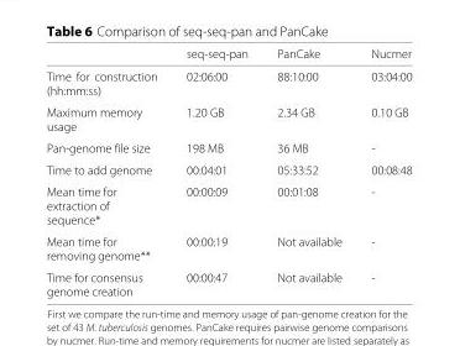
<table><thead><tr><td></td><td>seq-seq-pan</td><td>PanCake</td><td>Nucmer</td></tr></thead><tbody><tr><td>Time for construction (hh:mm:ss)</td><td>02:06:00</td><td>88:10:00</td><td>03:04:00</td></tr><tr><td>Maximum memory usage</td><td>1.20 GB</td><td>2.34 GB</td><td>0.10 GB</td></tr><tr><td>Pan-genome file size</td><td>198 MB</td><td>36 MB</td><td>-</td></tr><tr><td>Time to add genome</td><td>00:04:01</td><td>05:33:52</td><td>00:08:48</td></tr><tr><td>Mean time for extraction of sequence*</td><td>00:00:09</td><td>00:01:08</td><td>-</td></tr><tr><td>Mean time for removing genome**</td><td>00:00:19</td><td>Not available</td><td>-</td></tr><tr><td>Time for consensus genome creation</td><td>00:00:47</td><td>Not available</td><td>-</td></tr></tbody></table>